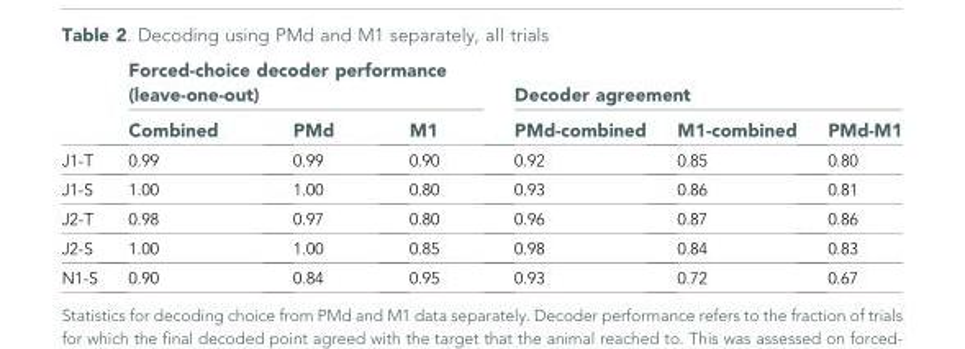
<table><thead><tr><td rowspan="2"></td><td colspan="3">Forced-choice decoder performance (leave-one-out)</td><td colspan="3">Decoder agreement</td></tr><tr><td>Combined</td><td>PMd</td><td>M1</td><td>PMd-combined</td><td>M1-combined</td><td>PMd-M1</td></tr></thead><tbody><tr><td>J1-T</td><td>0.99</td><td>0.99</td><td>0.90</td><td>0.92</td><td>0.85</td><td>0.80</td></tr><tr><td>J1-S</td><td>1.00</td><td>1.00</td><td>0.80</td><td>0.93</td><td>0.86</td><td>0.81</td></tr><tr><td>J2-T</td><td>0.98</td><td>0.97</td><td>0.80</td><td>0.96</td><td>0.87</td><td>0.86</td></tr><tr><td>J2-S</td><td>1.00</td><td>1.00</td><td>0.85</td><td>0.98</td><td>0.84</td><td>0.83</td></tr><tr><td>N1-S</td><td>0.90</td><td>0.84</td><td>0.95</td><td>0.93</td><td>0.72</td><td>0.67</td></tr></tbody></table>